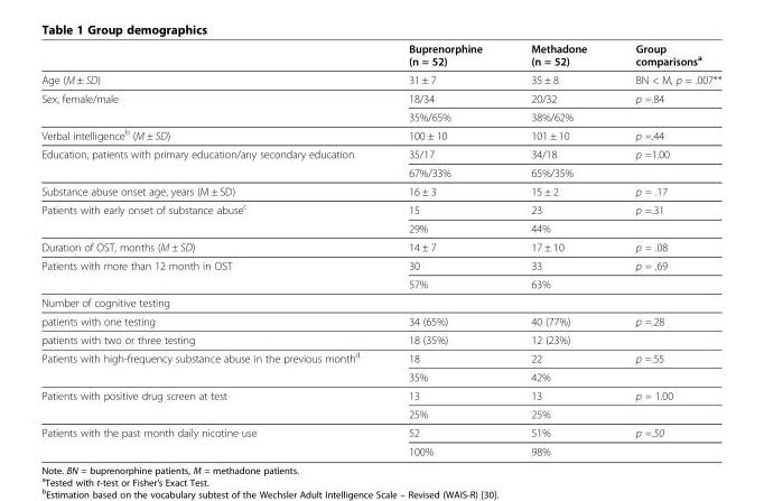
<table><thead><tr><td></td><td>Buprenorphine (n = 52)</td><td>Methadone (n = 52)</td><td>Group comparisons<sup>a</sup></td></tr></thead><tbody><tr><td>Age (M ± SD)</td><td>31 ± 7</td><td>35 ± 8</td><td>BN &lt; M, p = .007**</td></tr><tr><td rowspan="2">Sex, female/male</td><td>18/34</td><td>20/32</td><td>p =.84</td></tr><tr><td>35%/65%</td><td>38%/62%</td><td></td></tr><tr><td>Verbal intelligence<sup>b</sup> (M ± SD)</td><td>100 ± 10</td><td>101 ± 10</td><td>p =.44</td></tr><tr><td rowspan="2">Education, patients with primary education/any secondary education</td><td>35/17</td><td>34/18</td><td>p =1.00</td></tr><tr><td>67%/33%</td><td>65%/35%</td><td></td></tr><tr><td>Substance abuse onset age, years (M ± SD)</td><td>16 ± 3</td><td>15 ± 2</td><td>p = .17</td></tr><tr><td rowspan="2">Patients with early onset of substance abuse<sup>c</sup></td><td>15</td><td>23</td><td>p =.31</td></tr><tr><td>29%</td><td>44%</td><td></td></tr><tr><td>Duration of OST, months (M ± SD)</td><td>14 ± 7</td><td>17 ± 10</td><td>p = .08</td></tr><tr><td rowspan="2">Patients with more than 12 month in OST</td><td>30</td><td>33</td><td>p = .69</td></tr><tr><td>57%</td><td>63%</td><td></td></tr><tr><td colspan="4">Number of cognitive testing</td></tr><tr><td>patients with one testing</td><td>34 (65%)</td><td>40 (77%)</td><td>p =.28</td></tr><tr><td>patients with two or three testing</td><td>18 (35%)</td><td>12 (23%)</td><td></td></tr><tr><td rowspan="2">Patients with high-frequency substance abuse in the previous month<sup>d</sup></td><td>18</td><td>22</td><td>p =.55</td></tr><tr><td>35%</td><td>42%</td><td></td></tr><tr><td rowspan="2">Patients with positive drug screen at test</td><td>13</td><td>13</td><td>p = 1.00</td></tr><tr><td>25%</td><td>25%</td><td></td></tr><tr><td rowspan="2">Patients with the past month daily nicotine use</td><td>52</td><td>51%</td><td>p =.50</td></tr><tr><td>100%</td><td>98%</td><td></td></tr></tbody></table>